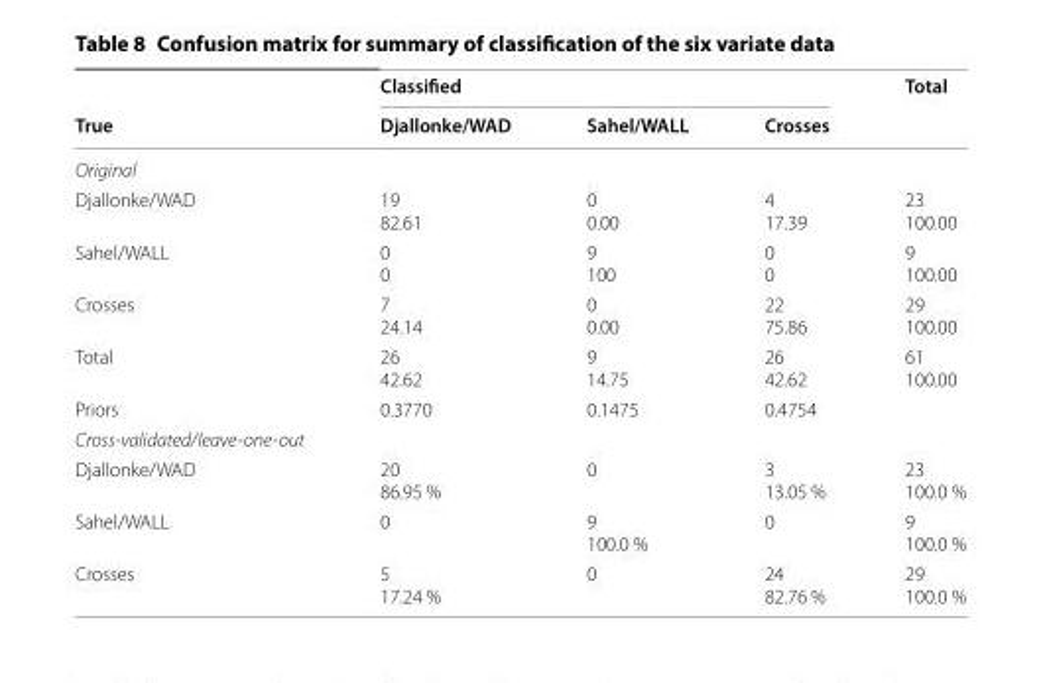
<table><thead><tr><td rowspan="2">True</td><td colspan="3">Classified</td><td rowspan="2">Total</td></tr><tr><td>Djallonke/WAD</td><td>Sahel/WALL</td><td>Crosses</td></tr></thead><tbody><tr><td colspan="5">Original</td></tr><tr><td>Djallonke/WAD</td><td>19 82.61</td><td>0 0.00</td><td>4 17.39</td><td>23 100.00</td></tr><tr><td>Sahel/WALL</td><td>0 0</td><td>9 100</td><td>0 0</td><td>9 100.00</td></tr><tr><td>Crosses</td><td>7 24.14</td><td>0 0.00</td><td>22 75.86</td><td>29 100.00</td></tr><tr><td>Total</td><td>26 42.62</td><td>9 14.75</td><td>26 42.62</td><td>61 100.00</td></tr><tr><td>Priors</td><td>0.3770</td><td>0.1475</td><td>0.4754</td><td></td></tr><tr><td colspan="5">Cross-validated/leave-one-out</td></tr><tr><td>Djallonke/WAD</td><td>20 86.95 %</td><td>0</td><td>3 13.05 %</td><td>23 100.0 %</td></tr><tr><td>Sahel/WALL</td><td>0</td><td>9 100.0 %</td><td>0</td><td>9 100.0 %</td></tr><tr><td>Crosses</td><td>5 17.24 %</td><td>0</td><td>24 82.76 %</td><td>29 100.0 %</td></tr></tbody></table>